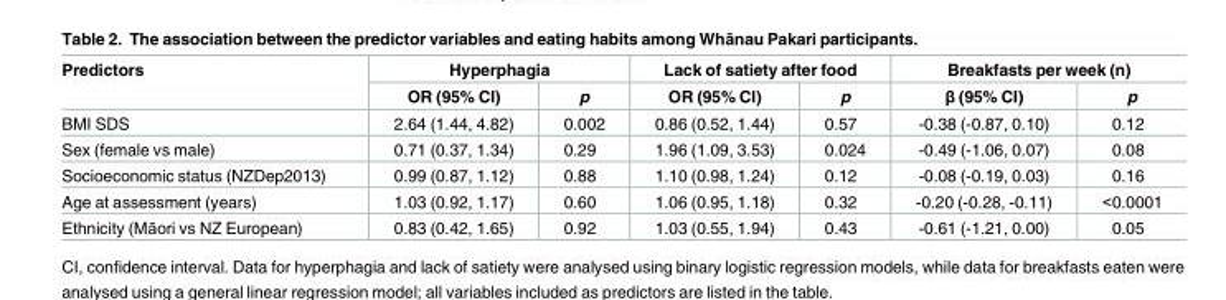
<table><thead><tr><td rowspan="2">Predictors</td><td colspan="2">Hyperphagia</td><td colspan="2">Lack of satiety after food</td><td colspan="2">Breakfasts per week (n)</td></tr><tr><td>OR (95% CI)</td><td>p</td><td>OR (95% CI)</td><td>p</td><td>β (95% CI)</td><td>p</td></tr></thead><tbody><tr><td>BMI SDS</td><td>2.64 (1.44, 4.82)</td><td>0.002</td><td>0.86 (0.52, 1.44)</td><td>0.57</td><td>-0.38 (-0.87, 0.10)</td><td>0.12</td></tr><tr><td>Sex (female vs male)</td><td>0.71 (0.37, 1.34)</td><td>0.29</td><td>1.96 (1.09, 3.53)</td><td>0.024</td><td>-0.49 (-1.06, 0.07)</td><td>0.08</td></tr><tr><td>Socioeconomic status (NZDep2013)</td><td>0.99 (0.87, 1.12)</td><td>0.88</td><td>1.10 (0.98, 1.24)</td><td>0.12</td><td>-0.08 (-0.19, 0.03)</td><td>0.16</td></tr><tr><td>Age at assessment (years)</td><td>1.03 (0.92, 1.17)</td><td>0.60</td><td>1.06 (0.95, 1.18)</td><td>0.32</td><td>-0.20 (-0.28, -0.11)</td><td>&lt;0.0001</td></tr><tr><td>Ethnicity (Māori vs NZ European)</td><td>0.83 (0.42, 1.65)</td><td>0.92</td><td>1.03 (0.55, 1.94)</td><td>0.43</td><td>-0.61 (-1.21, 0.00)</td><td>0.05</td></tr></tbody></table>